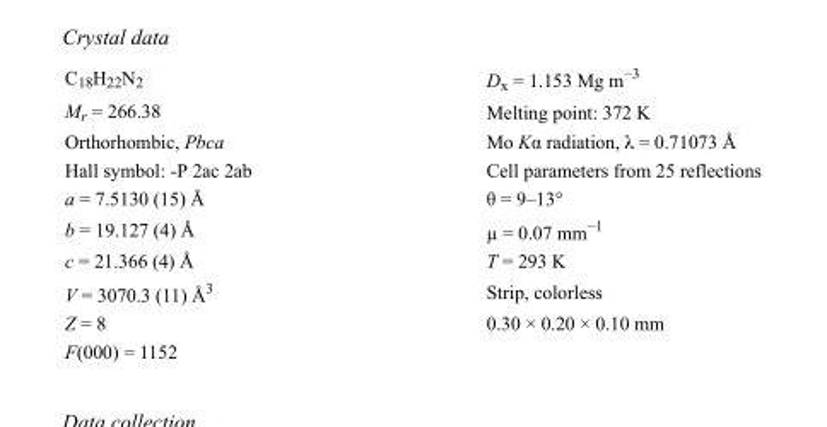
<table><tbody><tr><td>C<sub>18</sub>H<sub>22</sub>N<sub>2</sub></td><td>D<sub>x</sub> = 1.153 Mg m<sup>−3</sup></td></tr><tr><td>M<sub>r</sub> = 266.38</td><td>Melting point: 372 K</td></tr><tr><td>Orthorhombic, Pbca</td><td>Mo Kα radiation, λ = 0.71073 Å</td></tr><tr><td>Hall symbol: -P 2ac 2ab</td><td>Cell parameters from 25 reflections</td></tr><tr><td>a = 7.5130 (15) Å</td><td>θ = 9–13°</td></tr><tr><td>b = 19.127 (4) Å</td><td>µ = 0.07 mm<sup>−1</sup></td></tr><tr><td>c = 21.366 (4) Å</td><td>T = 293 K</td></tr><tr><td>V = 3070.3 (11) Å<sup>3</sup></td><td>Strip, colorless</td></tr><tr><td>Z = 8</td><td>0.30 × 0.20 × 0.10 mm</td></tr><tr><td>F(000) = 1152</td><td></td></tr></tbody></table>